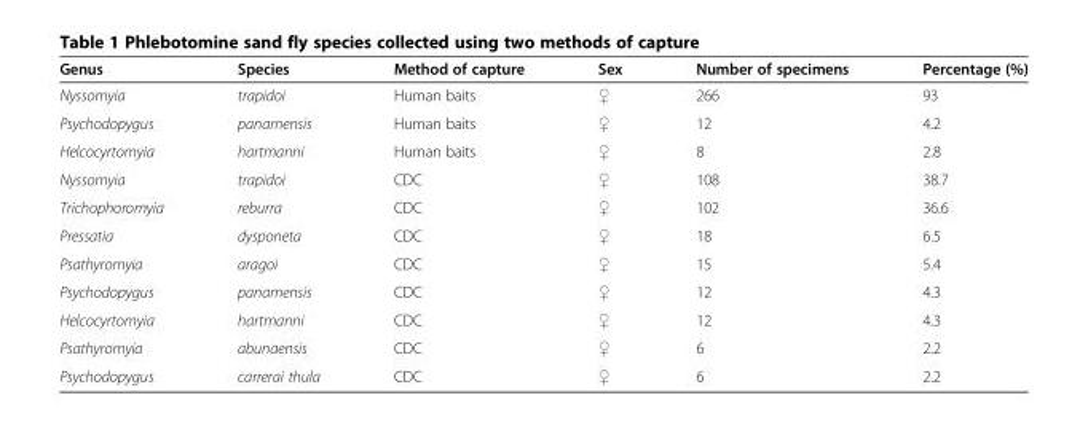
<table><thead><tr><td>Genus</td><td>Species</td><td>Method of capture</td><td>Sex</td><td>Number of specimens</td><td>Percentage (%)</td></tr></thead><tbody><tr><td>Nyssomyia</td><td>trapidoi</td><td>Human baits</td><td>♀</td><td>266</td><td>93</td></tr><tr><td>Psychodopygus</td><td>panamensis</td><td>Human baits</td><td>♀</td><td>12</td><td>4.2</td></tr><tr><td>Helcocyrtomyia</td><td>hartmanni</td><td>Human baits</td><td>♀</td><td>8</td><td>2.8</td></tr><tr><td>Nyssomyia</td><td>trapidoi</td><td>CDC</td><td>♀</td><td>108</td><td>38.7</td></tr><tr><td>Trichophoromyia</td><td>reburra</td><td>CDC</td><td>♀</td><td>102</td><td>36.6</td></tr><tr><td>Pressatia</td><td>dysponeta</td><td>CDC</td><td>♀</td><td>18</td><td>6.5</td></tr><tr><td>Psathyromyia</td><td>aragoi</td><td>CDC</td><td>♀</td><td>15</td><td>5.4</td></tr><tr><td>Psychodopygus</td><td>panamensis</td><td>CDC</td><td>♀</td><td>12</td><td>4.3</td></tr><tr><td>Helcocyrtomyia</td><td>hartmanni</td><td>CDC</td><td>♀</td><td>12</td><td>4.3</td></tr><tr><td>Psathyromyia</td><td>abunaensis</td><td>CDC</td><td>♀</td><td>6</td><td>2.2</td></tr><tr><td>Psychodopygus</td><td>carrerai thula</td><td>CDC</td><td>♀</td><td>6</td><td>2.2</td></tr></tbody></table>